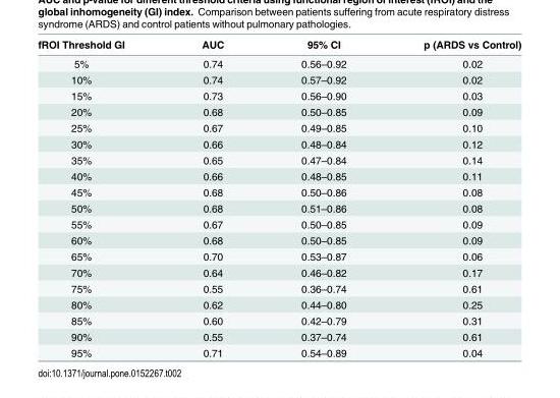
<table><thead><tr><td>fROI Threshold GI</td><td>AUC</td><td>95% CI</td><td>p (ARDS vs Control)</td></tr></thead><tbody><tr><td>5%</td><td>0.74</td><td>0.56–0.92</td><td>0.02</td></tr><tr><td>10%</td><td>0.74</td><td>0.57–0.92</td><td>0.02</td></tr><tr><td>15%</td><td>0.73</td><td>0.56–0.90</td><td>0.03</td></tr><tr><td>20%</td><td>0.68</td><td>0.50–0.85</td><td>0.09</td></tr><tr><td>25%</td><td>0.67</td><td>0.49–0.85</td><td>0.10</td></tr><tr><td>30%</td><td>0.66</td><td>0.48–0.84</td><td>0.12</td></tr><tr><td>35%</td><td>0.65</td><td>0.47–0.84</td><td>0.14</td></tr><tr><td>40%</td><td>0.66</td><td>0.48–0.85</td><td>0.11</td></tr><tr><td>45%</td><td>0.68</td><td>0.50–0.86</td><td>0.08</td></tr><tr><td>50%</td><td>0.68</td><td>0.51–0.86</td><td>0.08</td></tr><tr><td>55%</td><td>0.67</td><td>0.50–0.85</td><td>0.09</td></tr><tr><td>60%</td><td>0.68</td><td>0.50–0.85</td><td>0.09</td></tr><tr><td>65%</td><td>0.70</td><td>0.53–0.87</td><td>0.06</td></tr><tr><td>70%</td><td>0.64</td><td>0.46–0.82</td><td>0.17</td></tr><tr><td>75%</td><td>0.55</td><td>0.36–0.74</td><td>0.61</td></tr><tr><td>80%</td><td>0.62</td><td>0.44–0.80</td><td>0.25</td></tr><tr><td>85%</td><td>0.60</td><td>0.42–0.79</td><td>0.31</td></tr><tr><td>90%</td><td>0.55</td><td>0.37–0.74</td><td>0.61</td></tr><tr><td>95%</td><td>0.71</td><td>0.54–0.89</td><td>0.04</td></tr></tbody></table>